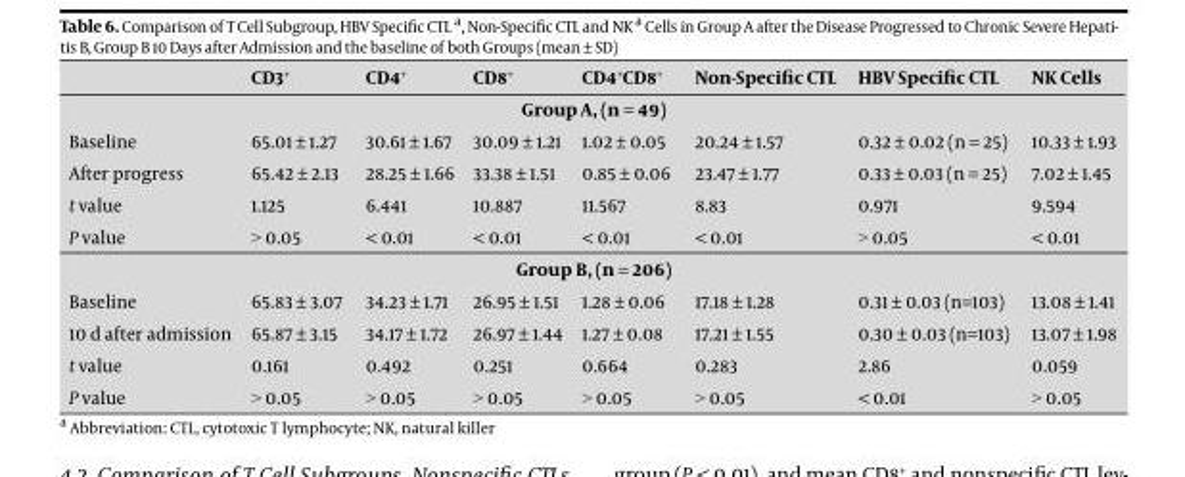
<table><thead><tr><td></td><td>CD3<sup>+</sup></td><td>CD4<sup>+</sup></td><td>CD8<sup>+</sup></td><td>CD4+CD8+</td><td>Non-Specific CTL</td><td>HBV Specific CTL</td><td>NK Cells</td></tr></thead><tbody><tr><td colspan="8">Group A, (n = 49)</td></tr><tr><td>Baseline</td><td>65.01 ± 1.27</td><td>30.61 ± 1.67</td><td>30.09 ± 1.21</td><td>1.02 ± 0.05</td><td>20.24 ± 1.57</td><td>0.32 ± 0.02 (n = 25)</td><td>10.33 ± 1.93</td></tr><tr><td>After progress</td><td>65.42 ± 2.13</td><td>28.25 ± 1.66</td><td>33.38 ± 1.51</td><td>0.85 ± 0.06</td><td>23.47 ± 1.77</td><td>0.33 ± 0.03 (n = 25)</td><td>7.02 ± 1.45</td></tr><tr><td>t value</td><td>1.125</td><td>6.441</td><td>10.887</td><td>11.567</td><td>8.83</td><td>0.971</td><td>9.594</td></tr><tr><td>P value</td><td>&gt; 0.05</td><td>&lt; 0.01</td><td>&lt; 0.01</td><td>&lt; 0.01</td><td>&lt; 0.01</td><td>&gt; 0.05</td><td>&lt; 0.01</td></tr><tr><td colspan="8">Group B, (n = 206)</td></tr><tr><td>Baseline</td><td>65.83 ± 3.07</td><td>34.23 ± 1.71</td><td>26.95 ± 1.51</td><td>1.28 ± 0.06</td><td>17.18 ± 1.28</td><td>0.31 ± 0.03 (n=103)</td><td>13.08 ± 1.41</td></tr><tr><td>10 d after admission</td><td>65.87 ± 3.15</td><td>34.17 ± 1.72</td><td>26.97 ± 1.44</td><td>1.27 ± 0.08</td><td>17.21 ± 1.55</td><td>0.30 ± 0.03 (n=103)</td><td>13.07 ± 1.98</td></tr><tr><td>t value</td><td>0.161</td><td>0.492</td><td>0.251</td><td>0.664</td><td>0.283</td><td>2.86</td><td>0.059</td></tr><tr><td>P value</td><td>&gt; 0.05</td><td>&gt; 0.05</td><td>&gt; 0.05</td><td>&gt; 0.05</td><td>&gt; 0.05</td><td>&lt; 0.01</td><td>&gt; 0.05</td></tr></tbody></table>